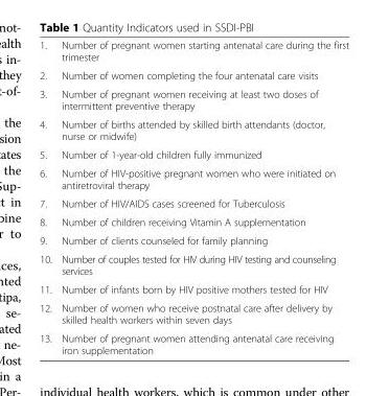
<table><tbody><tr><td>1.</td><td>Number of pregnant women starting antenatal care during the first trimester</td></tr><tr><td>2.</td><td>Number of women completing the four antenatal care visits</td></tr><tr><td>3.</td><td>Number of pregnant women receiving at least two doses of intermittent preventive therapy</td></tr><tr><td>4.</td><td>Number of births attended by skilled birth attendants (doctor, nurse or midwife)</td></tr><tr><td>5.</td><td>Number of 1-year-old children fully immunized</td></tr><tr><td>6.</td><td>Number of HIV-positive pregnant women who were initiated on antiretroviral therapy</td></tr><tr><td>7.</td><td>Number of HIV/AIDS cases screened for Tuberculosis</td></tr><tr><td>8.</td><td>Number of children receiving Vitamin A supplementation</td></tr><tr><td>9.</td><td>Number of clients counseled for family planning</td></tr><tr><td>10.</td><td>Number of couples tested for HIV during HIV testing and counseling services</td></tr><tr><td>11.</td><td>Number of infants born by HIV positive mothers tested for HIV</td></tr><tr><td>12.</td><td>Number of women who receive postnatal care after delivery by skilled health workers within seven days</td></tr><tr><td>13.</td><td>Number of pregnant women attending antenatal care receiving iron supplementation</td></tr></tbody></table>